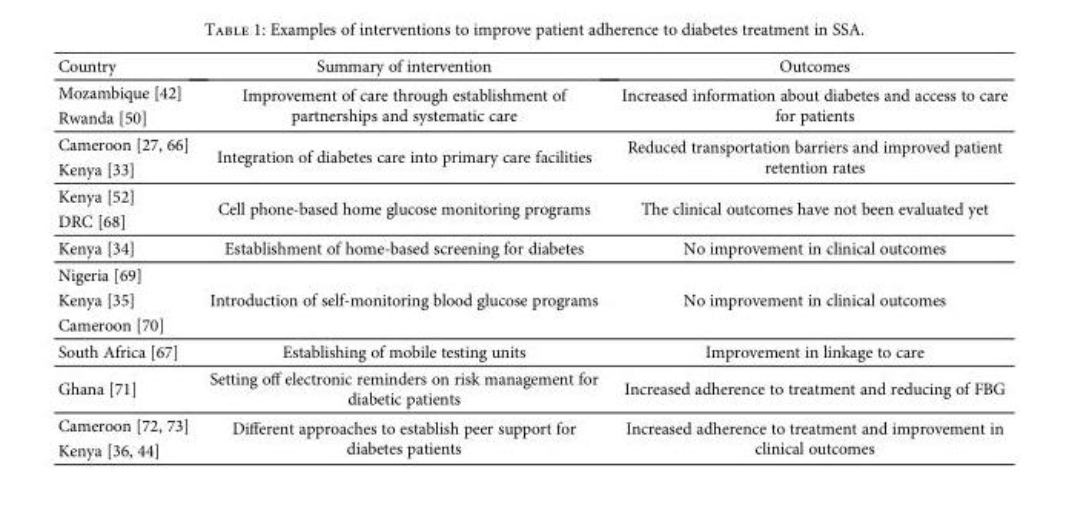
<table><thead><tr><td>Country</td><td>Summary of intervention</td><td>Outcomes</td></tr></thead><tbody><tr><td>Mozambique [42]</td><td rowspan="2">Improvement of care through establishment of partnerships and systematic care</td><td rowspan="2">Increased information about diabetes and access to care for patients</td></tr><tr><td>Rwanda [50]</td></tr><tr><td>Cameroon [27, 66]</td><td rowspan="2">Integration of diabetes care into primary care facilities</td><td rowspan="2">Reduced transportation barriers and improved patient retention rates</td></tr><tr><td>Kenya [33]</td></tr><tr><td>Kenya [52]</td><td rowspan="2">Cell phone-based home glucose monitoring programs</td><td rowspan="2">The clinical outcomes have not been evaluated yet</td></tr><tr><td>DRC [68]</td></tr><tr><td>Kenya [34]</td><td>Establishment of home-based screening for diabetes</td><td>No improvement in clinical outcomes</td></tr><tr><td>Nigeria [69]</td><td rowspan="3">Introduction of self-monitoring blood glucose programs</td><td rowspan="3">No improvement in clinical outcomes</td></tr><tr><td>Kenya [35]</td></tr><tr><td>Cameroon [70]</td></tr><tr><td>South Africa [67]</td><td>Establishing of mobile testing units</td><td>Improvement in linkage to care</td></tr><tr><td>Ghana [71]</td><td>Setting off electronic reminders on risk management for diabetic patients</td><td>Increased adherence to treatment and reducing of FBG</td></tr><tr><td>Cameroon [72, 73]</td><td rowspan="2">Different approaches to establish peer support for diabetes patients</td><td rowspan="2">Increased adherence to treatment and improvement in clinical outcomes</td></tr><tr><td>Kenya [36, 44]</td></tr></tbody></table>